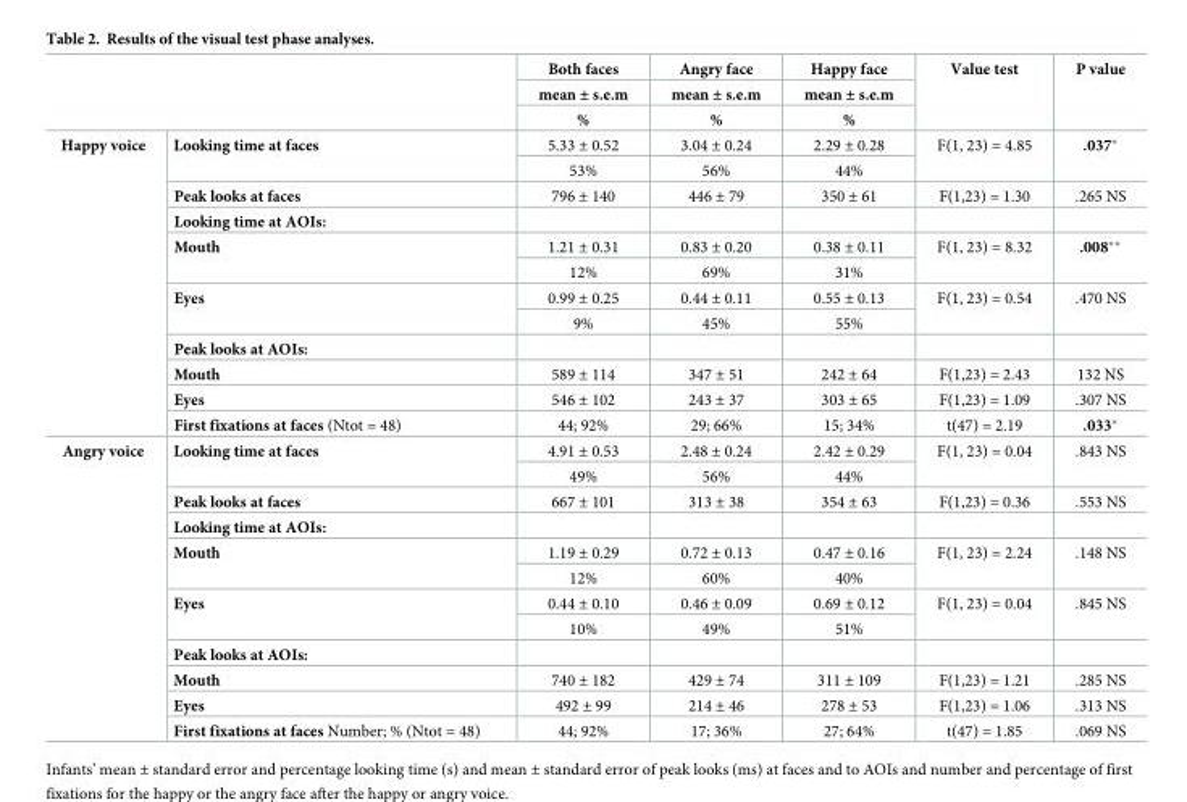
<table><thead><tr><td rowspan="3"></td><td rowspan="3"></td><td rowspan="3">Both faces mean ± s.e.m %</td><td rowspan="3">Angry face mean ± s.e.m %</td><td rowspan="3">Happy face mean ± s.e.m %</td><td rowspan="3">Value test</td><td rowspan="3">P value</td></tr><tr></tr><tr></tr></thead><tbody><tr><td rowspan="12">Happy voice</td><td rowspan="2">Looking time at faces</td><td>5.33 ± 0.52</td><td>3.04 ± 0.24</td><td>2.29 ± 0.28</td><td rowspan="2">F(1, 23) = 4.85</td><td rowspan="2">.037*</td></tr><tr><td>53%</td><td>56%</td><td>44%</td></tr><tr><td>Peak looks at faces</td><td>796 ± 140</td><td>446 ± 79</td><td>350 ± 61</td><td>F(1,23) = 1.30</td><td>.265 NS</td></tr><tr><td>Looking time at AOIs:</td><td></td><td></td><td></td><td></td><td></td></tr><tr><td rowspan="2">Mouth</td><td>1.21 ± 0.31</td><td>0.83 ± 0.20</td><td>0.38 ± 0.11</td><td rowspan="2">F(1, 23) = 8.32</td><td rowspan="2">.008**</td></tr><tr><td>12%</td><td>69%</td><td>31%</td></tr><tr><td rowspan="2">Eyes</td><td>0.99 ± 0.25</td><td>0.44 ± 0.11</td><td>0.55 ± 0.13</td><td rowspan="2">F(1, 23) = 0.54</td><td rowspan="2">.470 NS</td></tr><tr><td>9%</td><td>45%</td><td>55%</td></tr><tr><td>Peak looks at AOIs:</td><td></td><td></td><td></td><td></td><td></td></tr><tr><td>Mouth</td><td>589 ± 114</td><td>347 ± 51</td><td>242 ± 64</td><td>F(1,23) = 2.43</td><td>132 NS</td></tr><tr><td>Eyes</td><td>546 ± 102</td><td>243 ± 37</td><td>303 ± 65</td><td>F(1,23) = 1.09</td><td>.307 NS</td></tr><tr><td>First fixations at faces (Ntot = 48)</td><td>44; 92%</td><td>29; 66%</td><td>15; 34%</td><td>t(47) = 2.19</td><td>.033*</td></tr><tr><td rowspan="12">Angry voice</td><td rowspan="2">Looking time at faces</td><td>4.91 ± 0.53</td><td>2.48 ± 0.24</td><td>2.42 ± 0.29</td><td rowspan="2">F(1, 23) = 0.04</td><td rowspan="2">.843 NS</td></tr><tr><td>49%</td><td>56%</td><td>44%</td></tr><tr><td>Peak looks at faces</td><td>667 ± 101</td><td>313 ± 38</td><td>354 ± 63</td><td>F(1,23) = 0.36</td><td>.553 NS</td></tr><tr><td>Looking time at AOIs:</td><td></td><td></td><td></td><td></td><td></td></tr><tr><td rowspan="2">Mouth</td><td>1.19 ± 0.29</td><td>0.72 ± 0.13</td><td>0.47 ± 0.16</td><td rowspan="2">F(1, 23) = 2.24</td><td rowspan="2">.148 NS</td></tr><tr><td>12%</td><td>60%</td><td>40%</td></tr><tr><td rowspan="2">Eyes</td><td>0.44 ± 0.10</td><td>0.46 ± 0.09</td><td>0.69 ± 0.12</td><td rowspan="2">F(1, 23) = 0.04</td><td rowspan="2">.845 NS</td></tr><tr><td>10%</td><td>49%</td><td>51%</td></tr><tr><td>Peak looks at AOIs:</td><td></td><td></td><td></td><td></td><td></td></tr><tr><td>Mouth</td><td>740 ± 182</td><td>429 ± 74</td><td>311 ± 109</td><td>F(1,23) = 1.21</td><td>.285 NS</td></tr><tr><td>Eyes</td><td>492 ± 99</td><td>214 ± 46</td><td>278 ± 53</td><td>F(1,23) = 1.06</td><td>.313 NS</td></tr><tr><td>First fixations at faces Number; % (Ntot = 48)</td><td>44; 92%</td><td>17; 36%</td><td>27; 64%</td><td>t(47) = 1.85</td><td>.069 NS</td></tr></tbody></table>